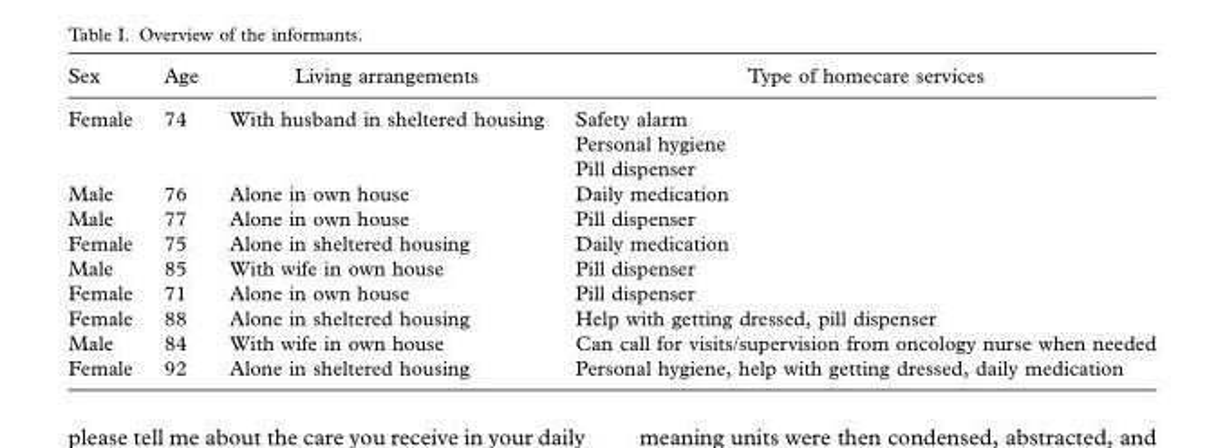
<table><thead><tr><td>Sex</td><td>Age</td><td>Living arrangements</td><td>Type of homecare services</td></tr></thead><tbody><tr><td>Female</td><td>74</td><td>With husband in sheltered housing</td><td>Safety alarm Personal hygiene Pill dispenser</td></tr><tr><td>Male</td><td>76</td><td>Alone in own house</td><td>Daily medication</td></tr><tr><td>Male</td><td>77</td><td>Alone in own house</td><td>Pill dispenser</td></tr><tr><td>Female</td><td>75</td><td>Alone in sheltered housing</td><td>Daily medication</td></tr><tr><td>Male</td><td>85</td><td>With wife in own house</td><td>Pill dispenser</td></tr><tr><td>Female</td><td>71</td><td>Alone in own house</td><td>Pill dispenser</td></tr><tr><td>Female</td><td>88</td><td>Alone in sheltered housing</td><td>Help with getting dressed, pill dispenser</td></tr><tr><td>Male</td><td>84</td><td>With wife in own house</td><td>Can call for visits/supervision from oncology nurse when needed</td></tr><tr><td>Female</td><td>92</td><td>Alone in sheltered housing</td><td>Personal hygiene, help with getting dressed, daily medication</td></tr></tbody></table>